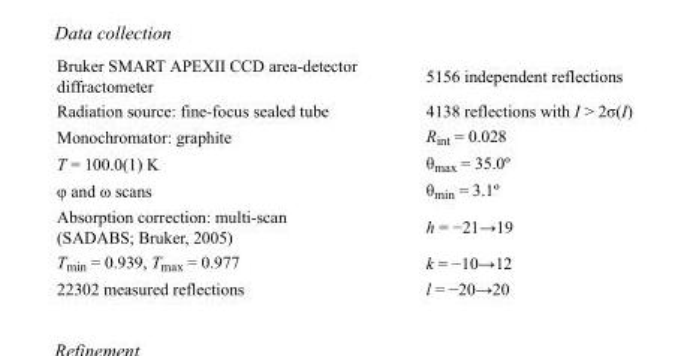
<table><tbody><tr><td>Bruker SMART APEXII CCD area-detector diffractometer</td><td>5156 independent reflections</td></tr><tr><td>Radiation source: fine-focus sealed tube</td><td>4138 reflections with I &gt; 2σ(I)</td></tr><tr><td>Monochromator: graphite</td><td>R<sub>int</sub> = 0.028</td></tr><tr><td>T = 100.0(1) K</td><td>θ<sub>max</sub> = 35.0º</td></tr><tr><td>φ and ω scans</td><td>θ<sub>min</sub> = 3.1º</td></tr><tr><td>Absorption correction: multi-scan (SADABS; Bruker, 2005)</td><td>h = −21→19</td></tr><tr><td>T<sub>min</sub> = 0.939, T<sub>max</sub> = 0.977</td><td>k = −10→12</td></tr><tr><td>22302 measured reflections</td><td>l = −20→20</td></tr></tbody></table>